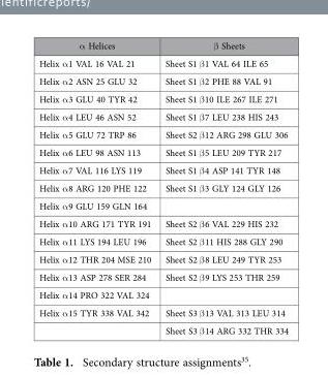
<table><thead><tr><td>α Helices</td><td>β Sheets</td></tr></thead><tbody><tr><td>Helix α 1 VAL 16 VAL 21</td><td>Sheet S1 β 1 VAL 64 ILE 65</td></tr><tr><td>Helix α 2 ASN 25 GLU 32</td><td>Sheet S1 β 2 PHE 88 VAL 91</td></tr><tr><td>Helix α 3 GLU 40 TYR 42</td><td>Sheet S1 β 10 ILE 267 ILE 271</td></tr><tr><td>Helix α 4 LEU 46 ASN 52</td><td>Sheet S1 β 7 LEU 238 HIS 243</td></tr><tr><td>Helix α 5 GLU 72 TRP 86</td><td>Sheet S2 β 12 ARG 298 GLU 306</td></tr><tr><td>Helix α 6 LEU 98 ASN 113</td><td>Sheet S1 β 5 LEU 209 TYR 217</td></tr><tr><td>Helix α 7 VAL 116 LYS 119</td><td>Sheet S1 β 4 ASP 141 TYR 148</td></tr><tr><td>Helix α 8 ARG 120 PHE 122</td><td>Sheet S1 β 3 GLY 124 GLY 126</td></tr><tr><td colspan="2">Helix α 9 GLU 159 GLN 164</td></tr><tr><td>Helix α 10 ARG 171 TYR 191</td><td>Sheet S2 β 6 VAL 229 HIS 232</td></tr><tr><td>Helix α 11 LYS 194 LEU 196</td><td>Sheet S2 β 11 HIS 288 GLY 290</td></tr><tr><td>Helix α 12 THR 204 MSE 210</td><td>Sheet S2 β 8 LEU 249 TYR 253</td></tr><tr><td>Helix α 13 ASP 278 SER 284</td><td>Sheet S2 β 9 LYS 253 THR 259</td></tr><tr><td colspan="2">Helix α 14 PRO 322 VAL 324</td></tr><tr><td rowspan="2">Helix α 15 TYR 338 VAL 342</td><td>Sheet S3 β 13 VAL 313 LEU 314</td></tr><tr><td>Sheet S3 β 14 ARG 332 THR 334</td></tr></tbody></table>